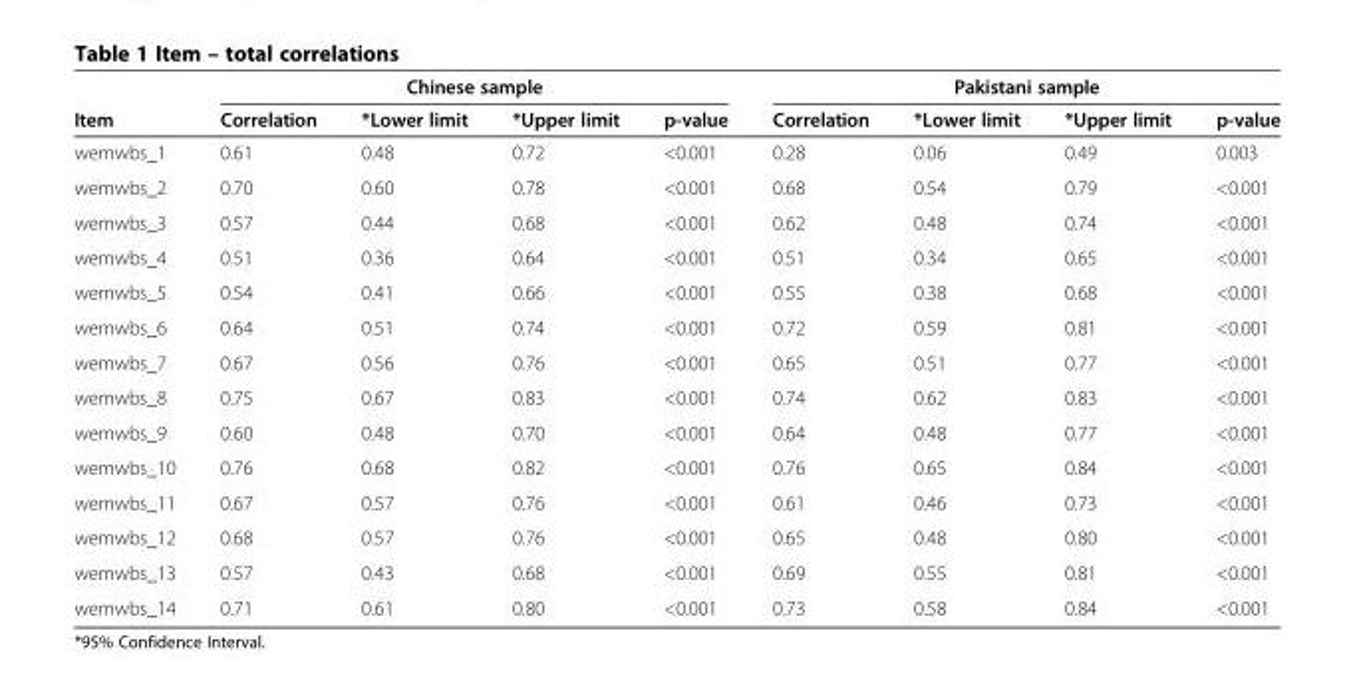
<table><thead><tr><td rowspan="2">Item</td><td colspan="4">Chinese sample</td><td colspan="4">Pakistani sample</td></tr><tr><td>Correlation</td><td>*Lower limit</td><td>*Upper limit</td><td>p-value</td><td>Correlation</td><td>*Lower limit</td><td>*Upper limit</td><td>p-value</td></tr></thead><tbody><tr><td>wemwbs_1</td><td>0.61</td><td>0.48</td><td>0.72</td><td>&lt;0.001</td><td>0.28</td><td>0.06</td><td>0.49</td><td>0.003</td></tr><tr><td>wemwbs_2</td><td>0.70</td><td>0.60</td><td>0.78</td><td>&lt;0.001</td><td>0.68</td><td>0.54</td><td>0.79</td><td>&lt;0.001</td></tr><tr><td>wemwbs_3</td><td>0.57</td><td>0.44</td><td>0.68</td><td>&lt;0.001</td><td>0.62</td><td>0.48</td><td>0.74</td><td>&lt;0.001</td></tr><tr><td>wemwbs_4</td><td>0.51</td><td>0.36</td><td>0.64</td><td>&lt;0.001</td><td>0.51</td><td>0.34</td><td>0.65</td><td>&lt;0.001</td></tr><tr><td>wemwbs_5</td><td>0.54</td><td>0.41</td><td>0.66</td><td>&lt;0.001</td><td>0.55</td><td>0.38</td><td>0.68</td><td>&lt;0.001</td></tr><tr><td>wemwbs_6</td><td>0.64</td><td>0.51</td><td>0.74</td><td>&lt;0.001</td><td>0.72</td><td>0.59</td><td>0.81</td><td>&lt;0.001</td></tr><tr><td>wemwbs_7</td><td>0.67</td><td>0.56</td><td>0.76</td><td>&lt;0.001</td><td>0.65</td><td>0.51</td><td>0.77</td><td>&lt;0.001</td></tr><tr><td>wemwbs_8</td><td>0.75</td><td>0.67</td><td>0.83</td><td>&lt;0.001</td><td>0.74</td><td>0.62</td><td>0.83</td><td>&lt;0.001</td></tr><tr><td>wemwbs_9</td><td>0.60</td><td>0.48</td><td>0.70</td><td>&lt;0.001</td><td>0.64</td><td>0.48</td><td>0.77</td><td>&lt;0.001</td></tr><tr><td>wemwbs_10</td><td>0.76</td><td>0.68</td><td>0.82</td><td>&lt;0.001</td><td>0.76</td><td>0.65</td><td>0.84</td><td>&lt;0.001</td></tr><tr><td>wemwbs_11</td><td>0.67</td><td>0.57</td><td>0.76</td><td>&lt;0.001</td><td>0.61</td><td>0.46</td><td>0.73</td><td>&lt;0.001</td></tr><tr><td>wemwbs_12</td><td>0.68</td><td>0.57</td><td>0.76</td><td>&lt;0.001</td><td>0.65</td><td>0.48</td><td>0.80</td><td>&lt;0.001</td></tr><tr><td>wemwbs_13</td><td>0.57</td><td>0.43</td><td>0.68</td><td>&lt;0.001</td><td>0.69</td><td>0.55</td><td>0.81</td><td>&lt;0.001</td></tr><tr><td>wemwbs_14</td><td>0.71</td><td>0.61</td><td>0.80</td><td>&lt;0.001</td><td>0.73</td><td>0.58</td><td>0.84</td><td>&lt;0.001</td></tr></tbody></table>